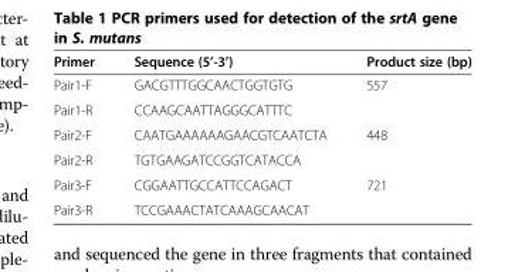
<table><thead><tr><td>Primer</td><td>Sequence (5’-3’)</td><td>Product size (bp)</td></tr></thead><tbody><tr><td>Pair1-F</td><td>GACGTTTGGCAACTGGTGTG</td><td>557</td></tr><tr><td>Pair1-R</td><td>CCAAGCAATTAGGGCATTTC</td><td></td></tr><tr><td>Pair2-F</td><td>CAATGAAAAAAGAACGTCAATCTA</td><td>448</td></tr><tr><td>Pair2-R</td><td>TGTGAAGATCCGGTCATACCA</td><td></td></tr><tr><td>Pair3-F</td><td>CGGAATTGCCATTCCAGACT</td><td>721</td></tr><tr><td>Pair3-R</td><td>TCCGAAACTATCAAAGCAACAT</td><td></td></tr></tbody></table>